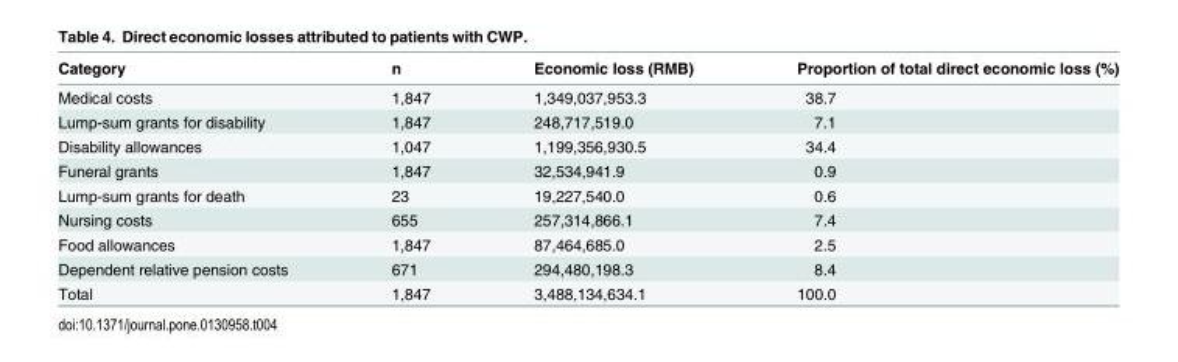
<table><thead><tr><td>Category</td><td>n</td><td>Economic loss (RMB)</td><td>Proportion of total direct economic loss (%)</td></tr></thead><tbody><tr><td>Medical costs</td><td>1,847</td><td>1,349,037,953.3</td><td>38.7</td></tr><tr><td>Lump-sum grants for disability</td><td>1,847</td><td>248,717,519.0</td><td>7.1</td></tr><tr><td>Disability allowances</td><td>1,047</td><td>1,199,356,930.5</td><td>34.4</td></tr><tr><td>Funeral grants</td><td>1,847</td><td>32,534,941.9</td><td>0.9</td></tr><tr><td>Lump-sum grants for death</td><td>23</td><td>19,227,540.0</td><td>0.6</td></tr><tr><td>Nursing costs</td><td>655</td><td>257,314,866.1</td><td>7.4</td></tr><tr><td>Food allowances</td><td>1,847</td><td>87,464,685.0</td><td>2.5</td></tr><tr><td>Dependent relative pension costs</td><td>671</td><td>294,480,198.3</td><td>8.4</td></tr><tr><td>Total</td><td>1,847</td><td>3,488,134,634.1</td><td>100.0</td></tr></tbody></table>